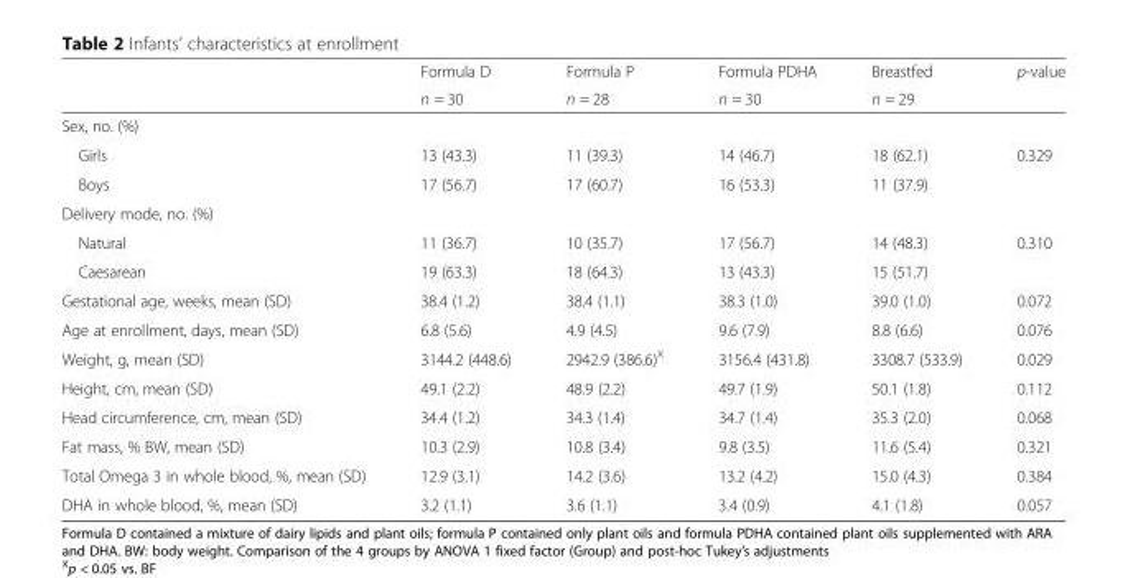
<table><thead><tr><td rowspan="2"></td><td rowspan="2">Formula D n = 30</td><td rowspan="2">Formula P n = 28</td><td rowspan="2">Formula PDHA n = 30</td><td rowspan="2">Breastfed n = 29</td><td rowspan="2">p-value</td></tr><tr></tr></thead><tbody><tr><td colspan="6">Sex, no. (%)</td></tr><tr><td>Girls</td><td>13 (43.3)</td><td>11 (39.3)</td><td>14 (46.7)</td><td>18 (62.1)</td><td rowspan="2">0.329</td></tr><tr><td>Boys</td><td>17 (56.7)</td><td>17 (60.7)</td><td>16 (53.3)</td><td>11 (37.9)</td></tr><tr><td colspan="6">Delivery mode, no. (%)</td></tr><tr><td>Natural</td><td>11 (36.7)</td><td>10 (35.7)</td><td>17 (56.7)</td><td>14 (48.3)</td><td rowspan="2">0.310</td></tr><tr><td>Caesarean</td><td>19 (63.3)</td><td>18 (64.3)</td><td>13 (43.3)</td><td>15 (51.7)</td></tr><tr><td>Gestational age, weeks, mean (SD)</td><td>38.4 (1.2)</td><td>38.4 (1.1)</td><td>38.3 (1.0)</td><td>39.0 (1.0)</td><td>0.072</td></tr><tr><td>Age at enrollment, days, mean (SD)</td><td>6.8 (5.6)</td><td>4.9 (4.5)</td><td>9.6 (7.9)</td><td>8.8 (6.6)</td><td>0.076</td></tr><tr><td>Weight, g, mean (SD)</td><td>3144.2 (448.6)</td><td>2942.9 (386.6)<sup>X</sup></td><td>3156.4 (431.8)</td><td>3308.7 (533.9)</td><td>0.029</td></tr><tr><td>Height, cm, mean (SD)</td><td>49.1 (2.2)</td><td>48.9 (2.2)</td><td>49.7 (1.9)</td><td>50.1 (1.8)</td><td>0.112</td></tr><tr><td>Head circumference, cm, mean (SD)</td><td>34.4 (1.2)</td><td>34.3 (1.4)</td><td>34.7 (1.4)</td><td>35.3 (2.0)</td><td>0.068</td></tr><tr><td>Fat mass, % BW, mean (SD)</td><td>10.3 (2.9)</td><td>10.8 (3.4)</td><td>9.8 (3.5)</td><td>11.6 (5.4)</td><td>0.321</td></tr><tr><td>Total Omega 3 in whole blood, %, mean (SD)</td><td>12.9 (3.1)</td><td>14.2 (3.6)</td><td>13.2 (4.2)</td><td>15.0 (4.3)</td><td>0.384</td></tr><tr><td>DHA in whole blood, %, mean (SD)</td><td>3.2 (1.1)</td><td>3.6 (1.1)</td><td>3.4 (0.9)</td><td>4.1 (1.8)</td><td>0.057</td></tr></tbody></table>